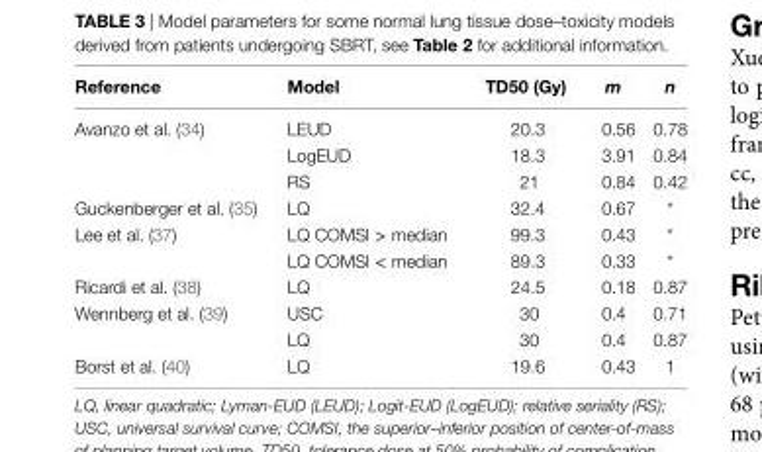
<table><thead><tr><td>Reference</td><td>Model</td><td>TD50 (gy)</td><td>m</td><td>n</td></tr></thead><tbody><tr><td rowspan="3">Avanzo et al. (34)</td><td>LEUD</td><td>20.3</td><td>0.56</td><td>0.78</td></tr><tr><td>LogEUD</td><td>18.3</td><td>3.91</td><td>0.84</td></tr><tr><td>RS</td><td>21</td><td>0.84</td><td>0.42</td></tr><tr><td>Guckenberger et al. (35)</td><td>LQ</td><td>32.4</td><td>0.67</td><td>*</td></tr><tr><td rowspan="2">Lee et al. (37)</td><td>LQ COMSI &gt; median</td><td>99.3</td><td>0.43</td><td>*</td></tr><tr><td>LQ COMSI &lt; median</td><td>89.3</td><td>0.33</td><td>*</td></tr><tr><td>Ricardi et al. (38)</td><td>LQ</td><td>24.5</td><td>0.18</td><td>0.87</td></tr><tr><td rowspan="2">Wennberg et al. (39)</td><td>USC</td><td>30</td><td>0.4</td><td>0.71</td></tr><tr><td>LQ</td><td>30</td><td>0.4</td><td>0.87</td></tr><tr><td>Borst et al. (40)</td><td>LQ</td><td>19.6</td><td>0.43</td><td>1</td></tr></tbody></table>